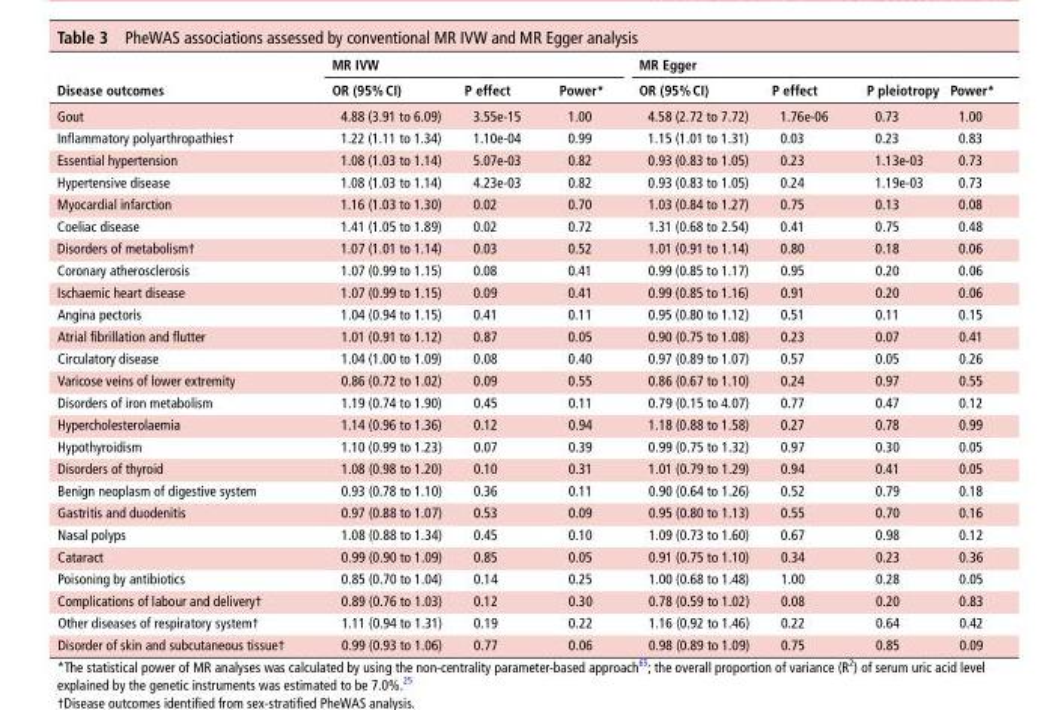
<table><thead><tr><td rowspan="2">disease outcomes</td><td colspan="3">Mr IVW</td><td colspan="4">Mr egger</td></tr><tr><td>Or (95% CI)</td><td>P effect</td><td>Power*</td><td>Or (95% CI)</td><td>P effect</td><td>P pleiotropy</td><td>Power*</td></tr></thead><tbody><tr><td>Gout</td><td>4.88 (3.91 to 6.09)</td><td>3.55e-15</td><td>1.00</td><td>4.58 (2.72 to 7.72)</td><td>1.76e-06</td><td>0.73</td><td>1.00</td></tr><tr><td>Inflammatory polyarthropathies†</td><td>1.22 (1.11 to 1.34)</td><td>1.10e-04</td><td>0.99</td><td>1.15 (1.01 to 1.31)</td><td>0.03</td><td>0.23</td><td>0.83</td></tr><tr><td>Essential hypertension</td><td>1.08 (1.03 to 1.14)</td><td>5.07e-03</td><td>0.82</td><td>0.93 (0.83 to 1.05)</td><td>0.23</td><td>1.13e-03</td><td>0.73</td></tr><tr><td>Hypertensive disease</td><td>1.08 (1.03 to 1.14)</td><td>4.23e-03</td><td>0.82</td><td>0.93 (0.83 to 1.05)</td><td>0.24</td><td>1.19e-03</td><td>0.73</td></tr><tr><td>Myocardial infarction</td><td>1.16 (1.03 to 1.30)</td><td>0.02</td><td>0.70</td><td>1.03 (0.84 to 1.27)</td><td>0.75</td><td>0.13</td><td>0.08</td></tr><tr><td>Coeliac disease</td><td>1.41 (1.05 to 1.89)</td><td>0.02</td><td>0.72</td><td>1.31 (0.68 to 2.54)</td><td>0.41</td><td>0.75</td><td>0.48</td></tr><tr><td>Disorders of metabolism†</td><td>1.07 (1.01 to 1.14)</td><td>0.03</td><td>0.52</td><td>1.01 (0.91 to 1.14)</td><td>0.80</td><td>0.18</td><td>0.06</td></tr><tr><td>Coronary atherosclerosis</td><td>1.07 (0.99 to 1.15)</td><td>0.08</td><td>0.41</td><td>0.99 (0.85 to 1.17)</td><td>0.95</td><td>0.20</td><td>0.06</td></tr><tr><td>Ischaemic heart disease</td><td>1.07 (0.99 to 1.15)</td><td>0.09</td><td>0.41</td><td>0.99 (0.85 to 1.16)</td><td>0.91</td><td>0.20</td><td>0.06</td></tr><tr><td>Angina pectoris</td><td>1.04 (0.94 to 1.15)</td><td>0.41</td><td>0.11</td><td>0.95 (0.80 to 1.12)</td><td>0.51</td><td>0.11</td><td>0.15</td></tr><tr><td>Atrial fibrillation and flutter</td><td>1.01 (0.91 to 1.12)</td><td>0.87</td><td>0.05</td><td>0.90 (0.75 to 1.08)</td><td>0.23</td><td>0.07</td><td>0.41</td></tr><tr><td>Circulatory disease</td><td>1.04 (1.00 to 1.09)</td><td>0.08</td><td>0.40</td><td>0.97 (0.89 to 1.07)</td><td>0.57</td><td>0.05</td><td>0.26</td></tr><tr><td>Varicose veins of lower extremity</td><td>0.86 (0.72 to 1.02)</td><td>0.09</td><td>0.55</td><td>0.86 (0.67 to 1.10)</td><td>0.24</td><td>0.97</td><td>0.55</td></tr><tr><td>Disorders of iron metabolism</td><td>1.19 (0.74 to 1.90)</td><td>0.45</td><td>0.11</td><td>0.79 (0.15 to 4.07)</td><td>0.77</td><td>0.47</td><td>0.12</td></tr><tr><td>Hypercholesterolaemia</td><td>1.14 (0.96 to 1.36)</td><td>0.12</td><td>0.94</td><td>1.18 (0.88 to 1.58)</td><td>0.27</td><td>0.78</td><td>0.99</td></tr><tr><td>Hypothyroidism</td><td>1.10 (0.99 to 1.23)</td><td>0.07</td><td>0.39</td><td>0.99 (0.75 to 1.32)</td><td>0.97</td><td>0.30</td><td>0.05</td></tr><tr><td>Disorders of thyroid</td><td>1.08 (0.98 to 1.20)</td><td>0.10</td><td>0.31</td><td>1.01 (0.79 to 1.29)</td><td>0.94</td><td>0.41</td><td>0.05</td></tr><tr><td>Benign neoplasm of digestive system</td><td>0.93 (0.78 to 1.10)</td><td>0.36</td><td>0.11</td><td>0.90 (0.64 to 1.26)</td><td>0.52</td><td>0.79</td><td>0.18</td></tr><tr><td>Gastritis and duodenitis</td><td>0.97 (0.88 to 1.07)</td><td>0.53</td><td>0.09</td><td>0.95 (0.80 to 1.13)</td><td>0.55</td><td>0.70</td><td>0.16</td></tr><tr><td>Nasal polyps</td><td>1.08 (0.88 to 1.34)</td><td>0.45</td><td>0.10</td><td>1.09 (0.73 to 1.60)</td><td>0.67</td><td>0.98</td><td>0.12</td></tr><tr><td>Cataract</td><td>0.99 (0.90 to 1.09)</td><td>0.85</td><td>0.05</td><td>0.91 (0.75 to 1.10)</td><td>0.34</td><td>0.23</td><td>0.36</td></tr><tr><td>Poisoning by antibiotics</td><td>0.85 (0.70 to 1.04)</td><td>0.14</td><td>0.25</td><td>1.00 (0.68 to 1.48)</td><td>1.00</td><td>0.28</td><td>0.05</td></tr><tr><td>Complications of labour and delivery†</td><td>0.89 (0.76 to 1.03)</td><td>0.12</td><td>0.30</td><td>0.78 (0.59 to 1.02)</td><td>0.08</td><td>0.20</td><td>0.83</td></tr><tr><td>Other diseases of respiratory system†</td><td>1.11 (0.94 to 1.31)</td><td>0.19</td><td>0.22</td><td>1.16 (0.92 to 1.46)</td><td>0.22</td><td>0.64</td><td>0.42</td></tr><tr><td>Disorder of skin and subcutaneous tissue†</td><td>0.99 (0.93 to 1.06)</td><td>0.77</td><td>0.06</td><td>0.98 (0.89 to 1.09)</td><td>0.75</td><td>0.85</td><td>0.09</td></tr></tbody></table>